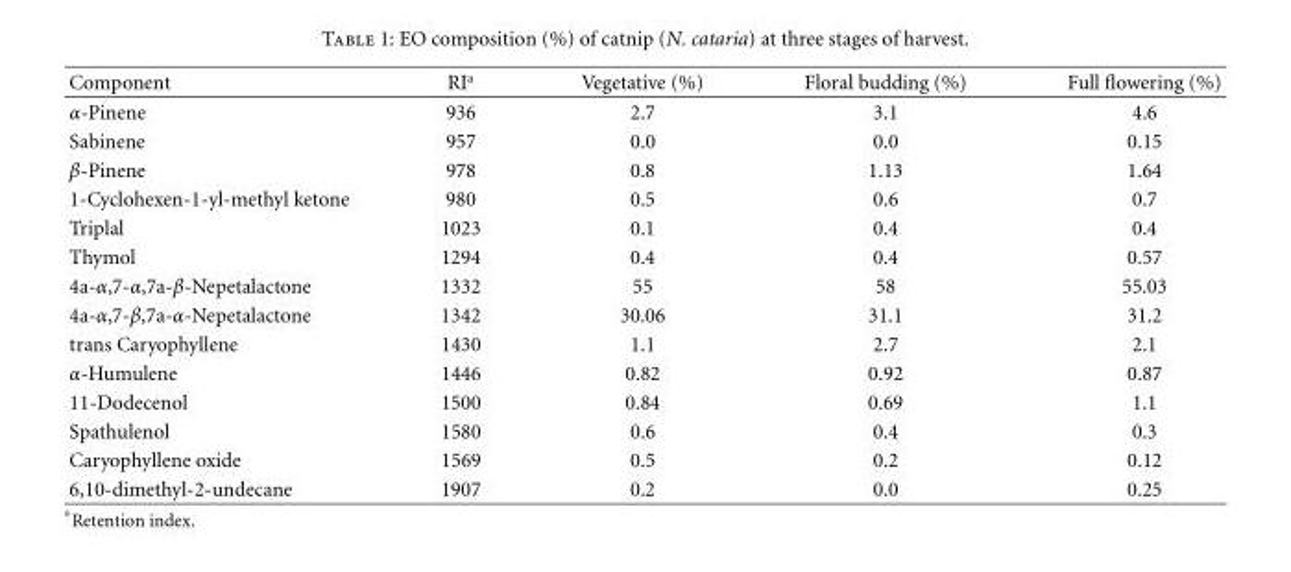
<table><thead><tr><td>Component</td><td>RI<sup>a</sup></td><td>Vegetative (%)</td><td>Floral budding (%)</td><td>Full flowering (%)</td></tr></thead><tbody><tr><td>α-Pinene</td><td>936</td><td>2.7</td><td>3.1</td><td>4.6</td></tr><tr><td>Sabinene</td><td>957</td><td>0.0</td><td>0.0</td><td>0.15</td></tr><tr><td>β-Pinene</td><td>978</td><td>0.8</td><td>1.13</td><td>1.64</td></tr><tr><td>1-Cyclohexen-1-yl-methyl ketone</td><td>980</td><td>0.5</td><td>0.6</td><td>0.7</td></tr><tr><td>Triplal</td><td>1023</td><td>0.1</td><td>0.4</td><td>0.4</td></tr><tr><td>Thymol</td><td>1294</td><td>0.4</td><td>0.4</td><td>0.57</td></tr><tr><td>4a-α,7-α,7a-β-Nepetalactone</td><td>1332</td><td>55</td><td>58</td><td>55.03</td></tr><tr><td>4a-α,7-β,7a-α-Nepetalactone</td><td>1342</td><td>30.06</td><td>31.1</td><td>31.2</td></tr><tr><td>trans Caryophyllene</td><td>1430</td><td>1.1</td><td>2.7</td><td>2.1</td></tr><tr><td>α-Humulene</td><td>1446</td><td>0.82</td><td>0.92</td><td>0.87</td></tr><tr><td>11-Dodecenol</td><td>1500</td><td>0.84</td><td>0.69</td><td>1.1</td></tr><tr><td>Spathulenol</td><td>1580</td><td>0.6</td><td>0.4</td><td>0.3</td></tr><tr><td>Caryophyllene oxide</td><td>1569</td><td>0.5</td><td>0.2</td><td>0.12</td></tr><tr><td>6,10-dimethyl-2-undecane</td><td>1907</td><td>0.2</td><td>0.0</td><td>0.25</td></tr></tbody></table>